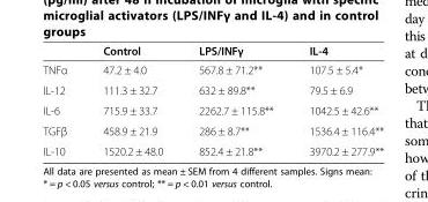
<table><thead><tr><td></td><td>Control</td><td>LPS/INFγ</td><td>IL-4</td></tr></thead><tbody><tr><td>TNFα</td><td>47.2 ± 4.0</td><td>567.8 ± 71.2**</td><td>107.5 ± 5.4*</td></tr><tr><td>IL-12</td><td>111.3 ± 32.7</td><td>632 ± 89.8**</td><td>79.5 ± 6.9</td></tr><tr><td>IL-6</td><td>715.9 ± 33.7</td><td>2262.7 ± 115.8**</td><td>1042.5 ± 42.6**</td></tr><tr><td>TGFβ</td><td>458.9 ± 21.9</td><td>286 ± 8.7**</td><td>1536.4 ± 116.4**</td></tr><tr><td>IL-10</td><td>1520.2 ± 48.0</td><td>852.4 ± 21.8**</td><td>3970.2 ± 277.9**</td></tr></tbody></table>